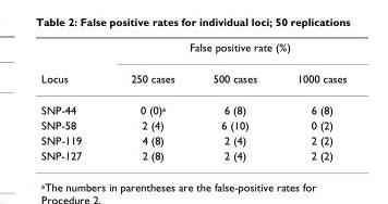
<table><thead><tr><td rowspan="2">Locus</td><td colspan="3">False positive rate (%)</td></tr><tr><td>250 cases</td><td>500 cases</td><td>1000 cases</td></tr></thead><tbody><tr><td>SNP-44</td><td>0 (0)<sup>a</sup></td><td>6 (8)</td><td>6 (8)</td></tr><tr><td>SNP-58</td><td>2 (4)</td><td>6 (10)</td><td>0 (2)</td></tr><tr><td>SNP-119</td><td>4 (8)</td><td>2 (4)</td><td>2 (2)</td></tr><tr><td>SNP-127</td><td>2 (8)</td><td>2 (4)</td><td>2 (2)</td></tr></tbody></table>